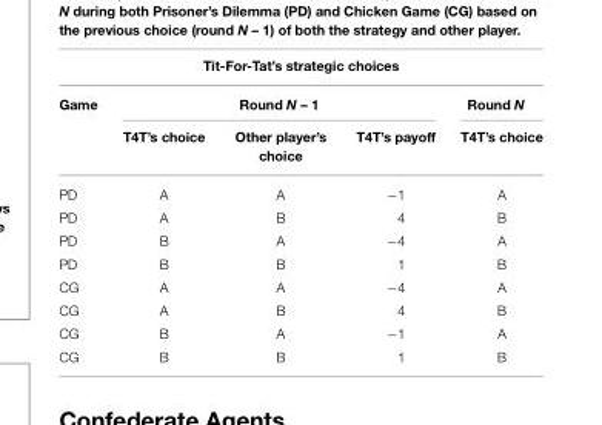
<table><thead><tr><td colspan="5">Tit-For-Tat’s strategic choices</td></tr><tr><td rowspan="2">Game</td><td colspan="3">Round N – 1</td><td rowspan="2">Round N T4T’s choice</td></tr><tr><td>T4T’s choice</td><td>Other player’s choice</td><td>T4T’s payoff</td></tr></thead><tbody><tr><td>PD</td><td>A</td><td>A</td><td>−1</td><td>A</td></tr><tr><td>PD</td><td>A</td><td>B</td><td>4</td><td>B</td></tr><tr><td>PD</td><td>B</td><td>A</td><td>−4</td><td>A</td></tr><tr><td>PD</td><td>B</td><td>B</td><td>1</td><td>B</td></tr><tr><td>CG</td><td>A</td><td>A</td><td>−4</td><td>A</td></tr><tr><td>CG</td><td>A</td><td>B</td><td>4</td><td>B</td></tr><tr><td>CG</td><td>B</td><td>A</td><td>−1</td><td>A</td></tr><tr><td>CG</td><td>B</td><td>B</td><td>1</td><td>B</td></tr></tbody></table>